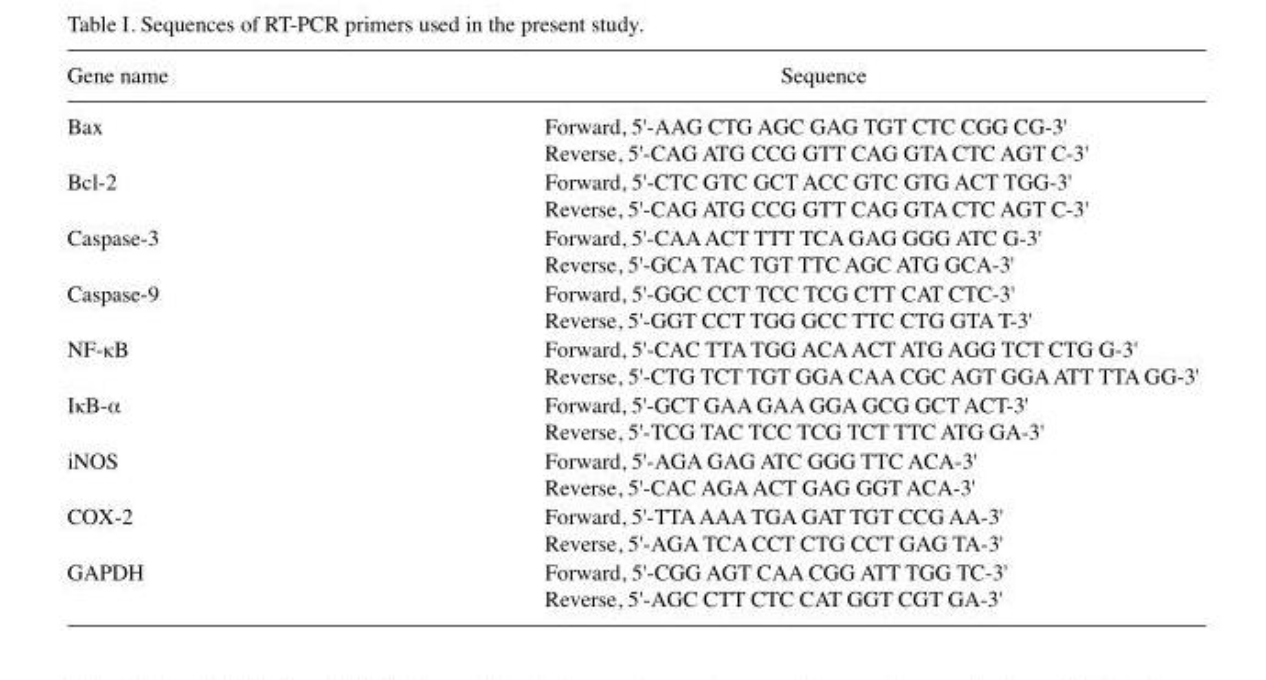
<table><thead><tr><td>Gene name</td><td>Sequence</td></tr></thead><tbody><tr><td rowspan="2">Bax</td><td>Forward, 5&#x27;-AAG CTG AGC GAG TGT CTC CGG CG-3&#x27;</td></tr><tr><td>Reverse, 5&#x27;-CAG ATG CCG GTT CAG GTA CTC AGT C-3&#x27;</td></tr><tr><td rowspan="2">Bcl-2</td><td>Forward, 5&#x27;-CTC GTC GCT ACC GTC GTG ACT TGG-3&#x27;</td></tr><tr><td>Reverse, 5&#x27;-CAG ATG CCG GTT CAG GTA CTC AGT C-3&#x27;</td></tr><tr><td rowspan="2">Caspase-3</td><td>Forward, 5&#x27;-CAA ACT TTT TCA GAG GGG ATC G-3&#x27;</td></tr><tr><td>Reverse, 5&#x27;-GCA TAC TGT TTC AGC ATG GCA-3&#x27;</td></tr><tr><td rowspan="2">Caspase-9</td><td>Forward, 5&#x27;-GGC CCT TCC TCG CTT CAT CTC-3&#x27;</td></tr><tr><td>Reverse, 5&#x27;-GGT CCT TGG GCC TTC CTG GTA T-3&#x27;</td></tr><tr><td rowspan="2">NF-κB</td><td>Forward, 5&#x27;-CAC TTA TGG ACA ACT ATG AGG TCT CTG G-3&#x27;</td></tr><tr><td>Reverse, 5&#x27;-CTG TCT TGT GGA CAA CGC AGT GGA ATT TTA GG-3&#x27;</td></tr><tr><td rowspan="2">IκB-α</td><td>Forward, 5&#x27;-GCT GAA GAA GGA GCG GCT ACT-3&#x27;</td></tr><tr><td>Reverse, 5&#x27;-TCG TAC TCC TCG TCT TTC ATG GA-3&#x27;</td></tr><tr><td rowspan="2">iNOS</td><td>Forward, 5&#x27;-AGA GAG ATC GGG TTC ACA-3&#x27;</td></tr><tr><td>Reverse, 5&#x27;-CAC AGA ACT GAG GGT ACA-3&#x27;</td></tr><tr><td rowspan="2">COX-2</td><td>Forward, 5&#x27;-TTA AAA TGA GAT TGT CCG AA-3&#x27;</td></tr><tr><td>Reverse, 5&#x27;-AGA TCA CCT CTG CCT GAG TA-3&#x27;</td></tr><tr><td rowspan="2">GAPDH</td><td>Forward, 5&#x27;-CGG AGT CAA CGG ATT TGG TC-3&#x27;</td></tr><tr><td>Reverse, 5&#x27;-AGC CTT CTC CAT GGT CGT GA-3&#x27;</td></tr></tbody></table>